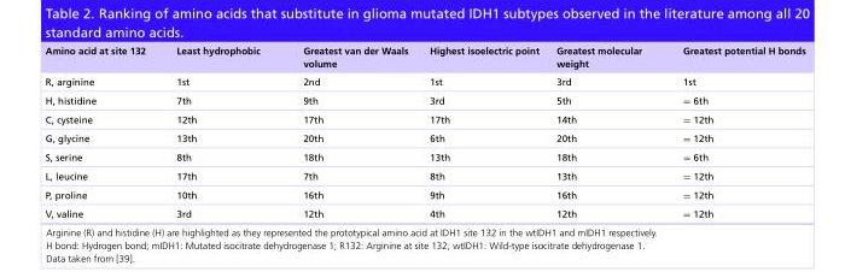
<table><thead><tr><td>Amino acid at site 132</td><td>Least hydrophobic</td><td>Greatest van der Waals volume</td><td>Highest isoelectric point</td><td>Greatest molecular weight</td><td>Greatest potential H bonds</td></tr></thead><tbody><tr><td>R, arginine</td><td>1st</td><td>2nd</td><td>1st</td><td>3rd</td><td>1st</td></tr><tr><td>H, histidine</td><td>7th</td><td>9th</td><td>3rd</td><td>5th</td><td>= 6th</td></tr><tr><td>C, cysteine</td><td>12th</td><td>17th</td><td>17th</td><td>14th</td><td>= 12th</td></tr><tr><td>G, glycine</td><td>13th</td><td>20th</td><td>6th</td><td>20th</td><td>= 12th</td></tr><tr><td>S, serine</td><td>8th</td><td>18th</td><td>13th</td><td>18th</td><td>= 6th</td></tr><tr><td>L, leucine</td><td>17th</td><td>7th</td><td>8th</td><td>13th</td><td>= 12th</td></tr><tr><td>P, proline</td><td>10th</td><td>16th</td><td>9th</td><td>16th</td><td>= 12th</td></tr><tr><td>V, valine</td><td>3rd</td><td>12th</td><td>4th</td><td>12th</td><td>= 12th</td></tr></tbody></table>